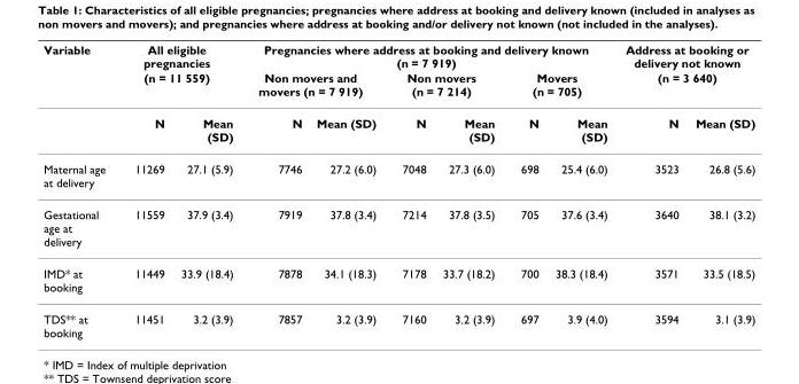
<table><thead><tr><td rowspan="3">Variable</td><td rowspan="2" colspan="2">All eligible pregnancies (n = 11 559)</td><td colspan="6">Pregnancies where address at booking and delivery known (n = 7 919)</td><td rowspan="2" colspan="2">Address at booking or delivery not known (n = 3 640)</td></tr><tr><td colspan="2">Non movers and movers (n = 7 919)</td><td colspan="2">Non movers (n = 7 214)</td><td colspan="2">Movers (n = 705)</td></tr><tr><td>N</td><td>Mean (SD)</td><td>N</td><td>Mean (SD)</td><td>N</td><td>Mean (SD)</td><td>N</td><td>Mean (SD)</td><td>N</td><td>Mean (SD)</td></tr></thead><tbody><tr><td>Maternal age at delivery</td><td>11269</td><td>27.1 (5.9)</td><td>7746</td><td>27.2 (6.0)</td><td>7048</td><td>27.3 (6.0)</td><td>698</td><td>25.4 (6.0)</td><td>3523</td><td>26.8 (5.6)</td></tr><tr><td>Gestational age at delivery</td><td>11559</td><td>37.9 (3.4)</td><td>7919</td><td>37.8 (3.4)</td><td>7214</td><td>37.8 (3.5)</td><td>705</td><td>37.6 (3.4)</td><td>3640</td><td>38.1 (3.2)</td></tr><tr><td>IMD* at booking</td><td>11449</td><td>33.9 (18.4)</td><td>7878</td><td>34.1 (18.3)</td><td>7178</td><td>33.7 (18.2)</td><td>700</td><td>38.3 (18.4)</td><td>3571</td><td>33.5 (18.5)</td></tr><tr><td>TDS** at booking</td><td>11451</td><td>3.2 (3.9)</td><td>7857</td><td>3.2 (3.9)</td><td>7160</td><td>3.2 (3.9)</td><td>697</td><td>3.9 (4.0)</td><td>3594</td><td>3.1 (3.9)</td></tr></tbody></table>